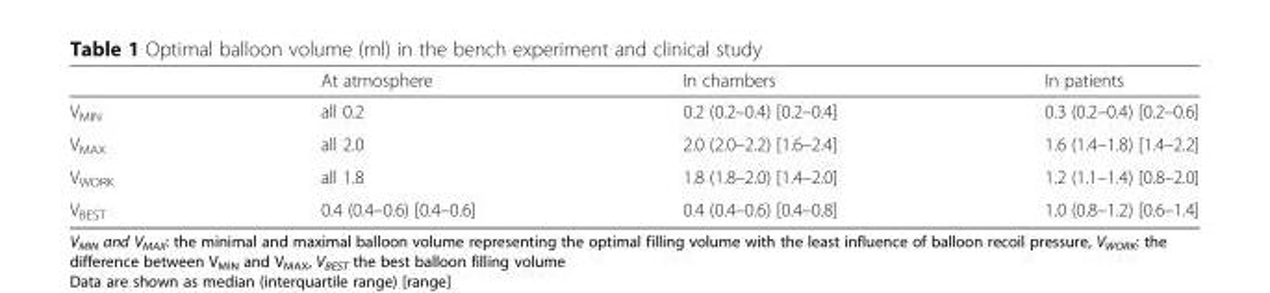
<table><thead><tr><td></td><td>At atmosphere</td><td>In chambers</td><td>In patients</td></tr></thead><tbody><tr><td>V<sub>MIN</sub></td><td>all 0.2</td><td>0.2 (0.2–0.4) [0.2–0.4]</td><td>0.3 (0.2–0.4) [0.2–0.6]</td></tr><tr><td>V<sub>MAX</sub></td><td>all 2.0</td><td>2.0 (2.0–2.2) [1.6–2.4]</td><td>1.6 (1.4–1.8) [1.4–2.2]</td></tr><tr><td>V<sub>WORK</sub></td><td>all 1.8</td><td>1.8 (1.8–2.0) [1.4–2.0]</td><td>1.2 (1.1–1.4) [0.8–2.0]</td></tr><tr><td>V<sub>BEST</sub></td><td>0.4 (0.4–0.6) [0.4–0.6]</td><td>0.4 (0.4–0.6) [0.4–0.8]</td><td>1.0 (0.8–1.2) [0.6–1.4]</td></tr></tbody></table>